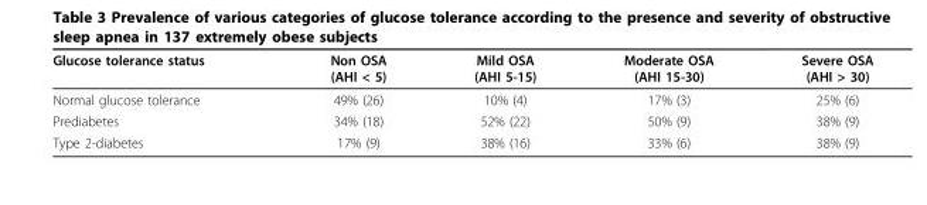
<table><thead><tr><td>Glucose tolerance status</td><td>Non OSA (AHI &lt; 5)</td><td>Mild OSA (AHI 5-15)</td><td>Moderate OSA (AHI 15-30)</td><td>Severe OSA (AHI &gt; 30)</td></tr></thead><tbody><tr><td>Normal glucose tolerance</td><td>49% (26)</td><td>10% (4)</td><td>17% (3)</td><td>25% (6)</td></tr><tr><td>Prediabetes</td><td>34% (18)</td><td>52% (22)</td><td>50% (9)</td><td>38% (9)</td></tr><tr><td>Type 2-diabetes</td><td>17% (9)</td><td>38% (16)</td><td>33% (6)</td><td>38% (9)</td></tr></tbody></table>